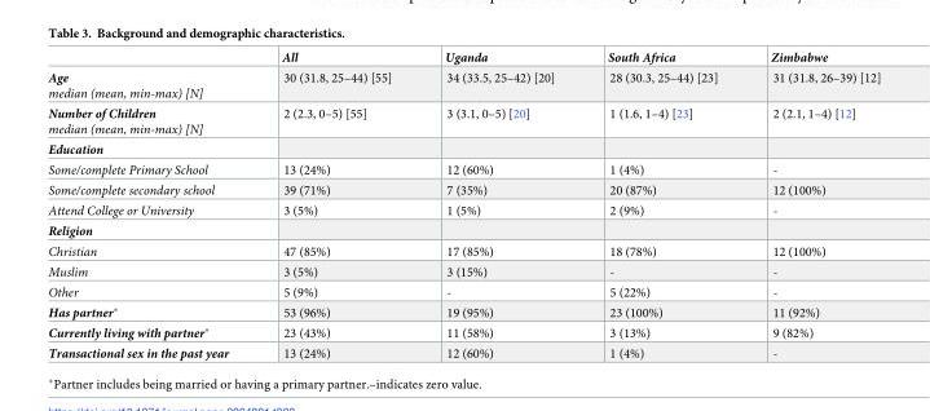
<table><thead><tr><td></td><td>All</td><td>Uganda</td><td>South Africa</td><td>Zimbabwe</td></tr></thead><tbody><tr><td>Age median (mean, min-max) [N]</td><td>30 (31.8, 25–44) [55]</td><td>34 (33.5, 25–42) [20]</td><td>28 (30.3, 25–44) [23]</td><td>31 (31.8, 26–39) [12]</td></tr><tr><td>Number of Children median (mean, min-max) [N]</td><td>2 (2.3, 0–5) [55]</td><td>3 (3.1, 0–5) [20]</td><td>1 (1.6, 1–4) [23]</td><td>2 (2.1, 1–4) [12]</td></tr><tr><td colspan="5">Education</td></tr><tr><td>Some/complete Primary School</td><td>13 (24%)</td><td>12 (60%)</td><td>1 (4%)</td><td>-</td></tr><tr><td>Some/complete secondary school</td><td>39 (71%)</td><td>7 (35%)</td><td>20 (87%)</td><td>12 (100%)</td></tr><tr><td>Attend College or University</td><td>3 (5%)</td><td>1 (5%)</td><td>2 (9%)</td><td>-</td></tr><tr><td colspan="5">Religion</td></tr><tr><td>Christian</td><td>47 (85%)</td><td>17 (85%)</td><td>18 (78%)</td><td>12 (100%)</td></tr><tr><td>Muslim</td><td>3 (5%)</td><td>3 (15%)</td><td>-</td><td>-</td></tr><tr><td>Other</td><td>5 (9%)</td><td>-</td><td>5 (22%)</td><td>-</td></tr><tr><td>Has partner*</td><td>53 (96%)</td><td>19 (95%)</td><td>23 (100%)</td><td>11 (92%)</td></tr><tr><td>Currently living with partner*</td><td>23 (43%)</td><td>11 (58%)</td><td>3 (13%)</td><td>9 (82%)</td></tr><tr><td>Transactional sex in the past year</td><td>13 (24%)</td><td>12 (60%)</td><td>1 (4%)</td><td>-</td></tr></tbody></table>